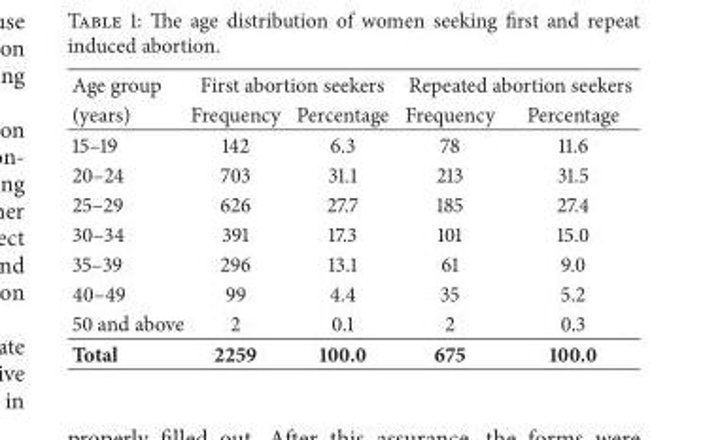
<table><thead><tr><td rowspan="2">Age group (years)</td><td colspan="2">First abortion seekers</td><td colspan="2">Repeated abortion seekers</td></tr><tr><td>Frequency</td><td>Percentage</td><td>Frequency</td><td>Percentage</td></tr></thead><tbody><tr><td>15–19</td><td>142</td><td>6.3</td><td>78</td><td>11.6</td></tr><tr><td>20–24</td><td>703</td><td>31.1</td><td>213</td><td>31.5</td></tr><tr><td>25–29</td><td>626</td><td>27.7</td><td>185</td><td>27.4</td></tr><tr><td>30–34</td><td>391</td><td>17.3</td><td>101</td><td>15.0</td></tr><tr><td>35–39</td><td>296</td><td>13.1</td><td>61</td><td>9.0</td></tr><tr><td>40–49</td><td>99</td><td>4.4</td><td>35</td><td>5.2</td></tr><tr><td>50 and above</td><td>2</td><td>0.1</td><td>2</td><td>0.3</td></tr><tr><td>Total</td><td>2259</td><td>100.0</td><td>675</td><td>100.0</td></tr></tbody></table>